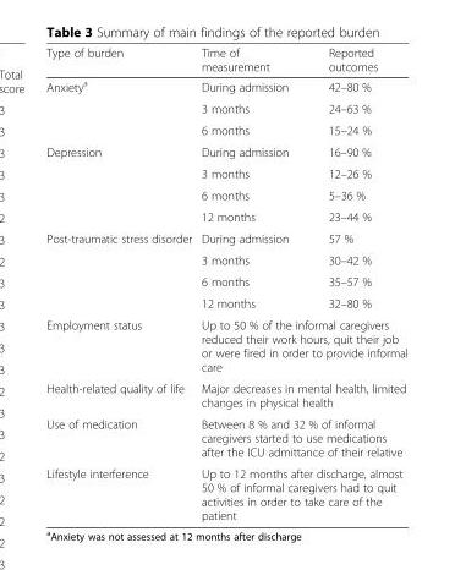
<table><thead><tr><td>Type of burden</td><td>Time of measurement</td><td>Reported outcomes</td></tr></thead><tbody><tr><td rowspan="3">Anxiety<sup>a</sup></td><td>During admission</td><td>42–80 %</td></tr><tr><td>3 months</td><td>24–63 %</td></tr><tr><td>6 months</td><td>15–24 %</td></tr><tr><td rowspan="4">Depression</td><td>During admission</td><td>16–90 %</td></tr><tr><td>3 months</td><td>12–26 %</td></tr><tr><td>6 months</td><td>5–36 %</td></tr><tr><td>12 months</td><td>23–44 %</td></tr><tr><td rowspan="4">Post-traumatic stress disorder</td><td>During admission</td><td>57 %</td></tr><tr><td>3 months</td><td>30–42 %</td></tr><tr><td>6 months</td><td>35–57 %</td></tr><tr><td>12 months</td><td>32–80 %</td></tr><tr><td>Employment status</td><td colspan="2">Up to 50 % of the informal caregivers reduced their work hours, quit their job or were fired in order to provide informal care</td></tr><tr><td>Health-related quality of life</td><td colspan="2">Major decreases in mental health, limited changes in physical health</td></tr><tr><td>Use of medication</td><td colspan="2">Between 8 % and 32 % of informal caregivers started to use medications after the ICU admittance of their relative</td></tr><tr><td>Lifestyle interference</td><td colspan="2">Up to 12 months after discharge, almost 50 % of informal caregivers had to quit activities in order to take care of the patient</td></tr></tbody></table>